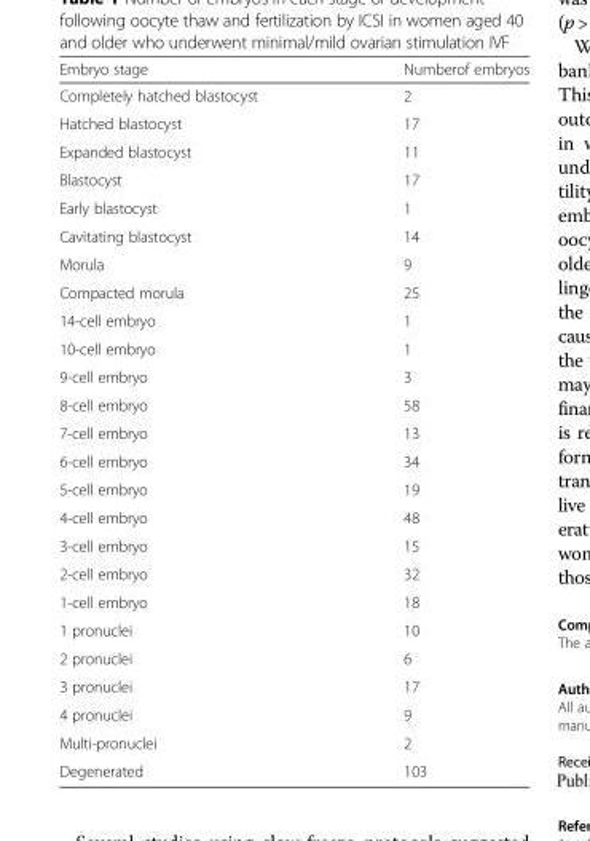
<table><thead><tr><td>Embryo stage</td><td>Numberof embryos</td></tr></thead><tbody><tr><td>Completely hatched blastocyst</td><td>2</td></tr><tr><td>Hatched blastocyst</td><td>17</td></tr><tr><td>Expanded blastocyst</td><td>11</td></tr><tr><td>Blastocyst</td><td>17</td></tr><tr><td>Early blastocyst</td><td>1</td></tr><tr><td>Cavitating blastocyst</td><td>14</td></tr><tr><td>Morula</td><td>9</td></tr><tr><td>Compacted morula</td><td>25</td></tr><tr><td>14-cell embryo</td><td>1</td></tr><tr><td>10-cell embryo</td><td>1</td></tr><tr><td>9-cell embryo</td><td>3</td></tr><tr><td>8-cell embryo</td><td>58</td></tr><tr><td>7-cell embryo</td><td>13</td></tr><tr><td>6-cell embryo</td><td>34</td></tr><tr><td>5-cell embryo</td><td>19</td></tr><tr><td>4-cell embryo</td><td>48</td></tr><tr><td>3-cell embryo</td><td>15</td></tr><tr><td>2-cell embryo</td><td>32</td></tr><tr><td>1-cell embryo</td><td>18</td></tr><tr><td>1 pronuclei</td><td>10</td></tr><tr><td>2 pronuclei</td><td>6</td></tr><tr><td>3 pronuclei</td><td>17</td></tr><tr><td>4 pronuclei</td><td>9</td></tr><tr><td>Multi-pronuclei</td><td>2</td></tr><tr><td>Degenerated</td><td>103</td></tr></tbody></table>